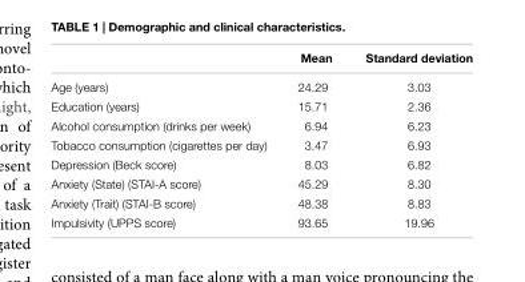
<table><thead><tr><td></td><td>Mean</td><td>Standard deviation</td></tr></thead><tbody><tr><td>Age (years)</td><td>24.29</td><td>3.03</td></tr><tr><td>Education (years)</td><td>15.71</td><td>2.36</td></tr><tr><td>Alcohol consumption (drinks per week)</td><td>6.94</td><td>6.23</td></tr><tr><td>Tobacco consumption (cigarettes per day)</td><td>3.47</td><td>6.93</td></tr><tr><td>Depression (Beck score)</td><td>8.03</td><td>6.82</td></tr><tr><td>Anxiety (State) (STAI-A score)</td><td>45.29</td><td>8.30</td></tr><tr><td>Anxiety (Trait) (STAI-B score)</td><td>48.38</td><td>8.83</td></tr><tr><td>Impulsivity (UPPS score)</td><td>93.65</td><td>19.96</td></tr></tbody></table>